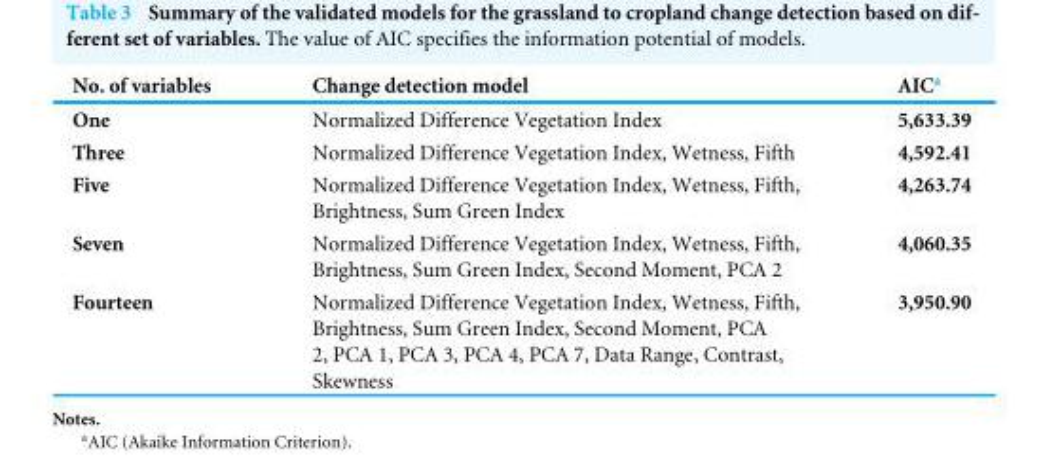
<table><thead><tr><td>No. of variables</td><td>Change detection model</td><td>AIC<sup>a</sup></td></tr></thead><tbody><tr><td>One</td><td>Normalized Difference Vegetation Index</td><td>5,633.39</td></tr><tr><td>Three</td><td>Normalized Difference Vegetation Index, Wetness, Fifth</td><td>4,592.41</td></tr><tr><td>Five</td><td>Normalized Difference Vegetation Index, Wetness, Fifth, Brightness, Sum Green Index</td><td>4,263.74</td></tr><tr><td>Seven</td><td>Normalized Difference Vegetation Index, Wetness, Fifth, Brightness, Sum Green Index, Second Moment, PCA 2</td><td>4,060.35</td></tr><tr><td>Fourteen</td><td>Normalized Difference Vegetation Index, Wetness, Fifth, Brightness, Sum Green Index, Second Moment, PCA 2, PCA 1, PCA 3, PCA 4, PCA 7, Data Range, Contrast, Skewness</td><td>3,950.90</td></tr></tbody></table>